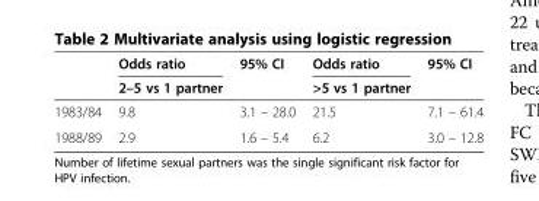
<table><thead><tr><td rowspan="2"></td><td rowspan="2">Odds ratio 2–5 vs 1 partner</td><td rowspan="2">95% CI</td><td rowspan="2">Odds ratio &gt;5 vs 1 partner</td><td rowspan="2">95% CI</td></tr><tr></tr></thead><tbody><tr><td>1983/84</td><td>9.8</td><td>3.1 – 28.0</td><td>21.5</td><td>7.1 – 61.4</td></tr><tr><td>1988/89</td><td>2.9</td><td>1.6 – 5.4</td><td>6.2</td><td>3.0 – 12.8</td></tr></tbody></table>